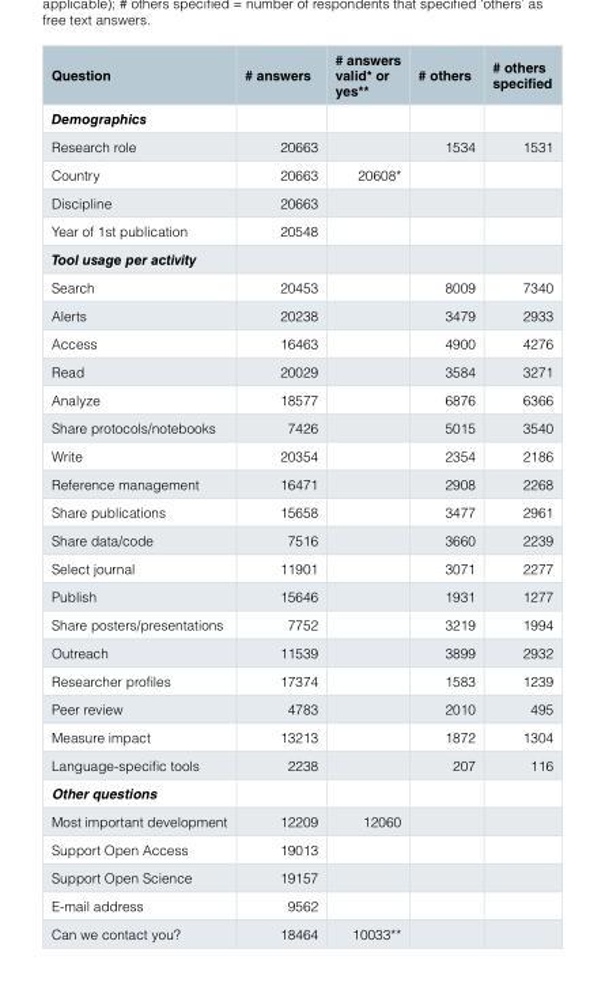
<table><thead><tr><td>Question</td><td># answers</td><td># answers valid* or yes**</td><td># others</td><td># others specified</td></tr></thead><tbody><tr><td colspan="5">Demographics</td></tr><tr><td>Research role</td><td>20663</td><td></td><td>1534</td><td>1531</td></tr><tr><td>Country</td><td>20663</td><td>20608*</td><td></td><td></td></tr><tr><td>Discipline</td><td>20663</td><td></td><td></td><td></td></tr><tr><td>Year of 1st publication</td><td>20548</td><td></td><td></td><td></td></tr><tr><td colspan="5">Tool usage per activity</td></tr><tr><td>Search</td><td>20453</td><td></td><td>8009</td><td>7340</td></tr><tr><td>Alerts</td><td>20238</td><td></td><td>3479</td><td>2933</td></tr><tr><td>Access</td><td>16463</td><td></td><td>4900</td><td>4276</td></tr><tr><td>Read</td><td>20029</td><td></td><td>3584</td><td>3271</td></tr><tr><td>Analyze</td><td>18577</td><td></td><td>6876</td><td>6366</td></tr><tr><td>Share protocols/notebooks</td><td>7426</td><td></td><td>5015</td><td>3540</td></tr><tr><td>Write</td><td>20354</td><td></td><td>2354</td><td>2186</td></tr><tr><td>Reference management</td><td>16471</td><td></td><td>2908</td><td>2268</td></tr><tr><td>Share publications</td><td>15658</td><td></td><td>3477</td><td>2961</td></tr><tr><td>Share data/code</td><td>7516</td><td></td><td>3660</td><td>2239</td></tr><tr><td>Select journal</td><td>11901</td><td></td><td>3071</td><td>2277</td></tr><tr><td>Publish</td><td>15646</td><td></td><td>1931</td><td>1277</td></tr><tr><td>Share posters/presentations</td><td>7752</td><td></td><td>3219</td><td>1994</td></tr><tr><td>Outreach</td><td>11539</td><td></td><td>3899</td><td>2932</td></tr><tr><td>Researcher profiles</td><td>17374</td><td></td><td>1583</td><td>1239</td></tr><tr><td>Peer review</td><td>4783</td><td></td><td>2010</td><td>495</td></tr><tr><td>Measure impact</td><td>13213</td><td></td><td>1872</td><td>1304</td></tr><tr><td>Language-specific tools</td><td>2238</td><td></td><td>207</td><td>116</td></tr><tr><td colspan="5">Other questions</td></tr><tr><td>Most important development</td><td>12209</td><td>12060</td><td></td><td></td></tr><tr><td>Support Open Access</td><td>19013</td><td></td><td></td><td></td></tr><tr><td>Support Open Science</td><td>19157</td><td></td><td></td><td></td></tr><tr><td>E-mail address</td><td>9562</td><td></td><td></td><td></td></tr><tr><td>Can we contact you?</td><td>18464</td><td>10033**</td><td></td><td></td></tr></tbody></table>